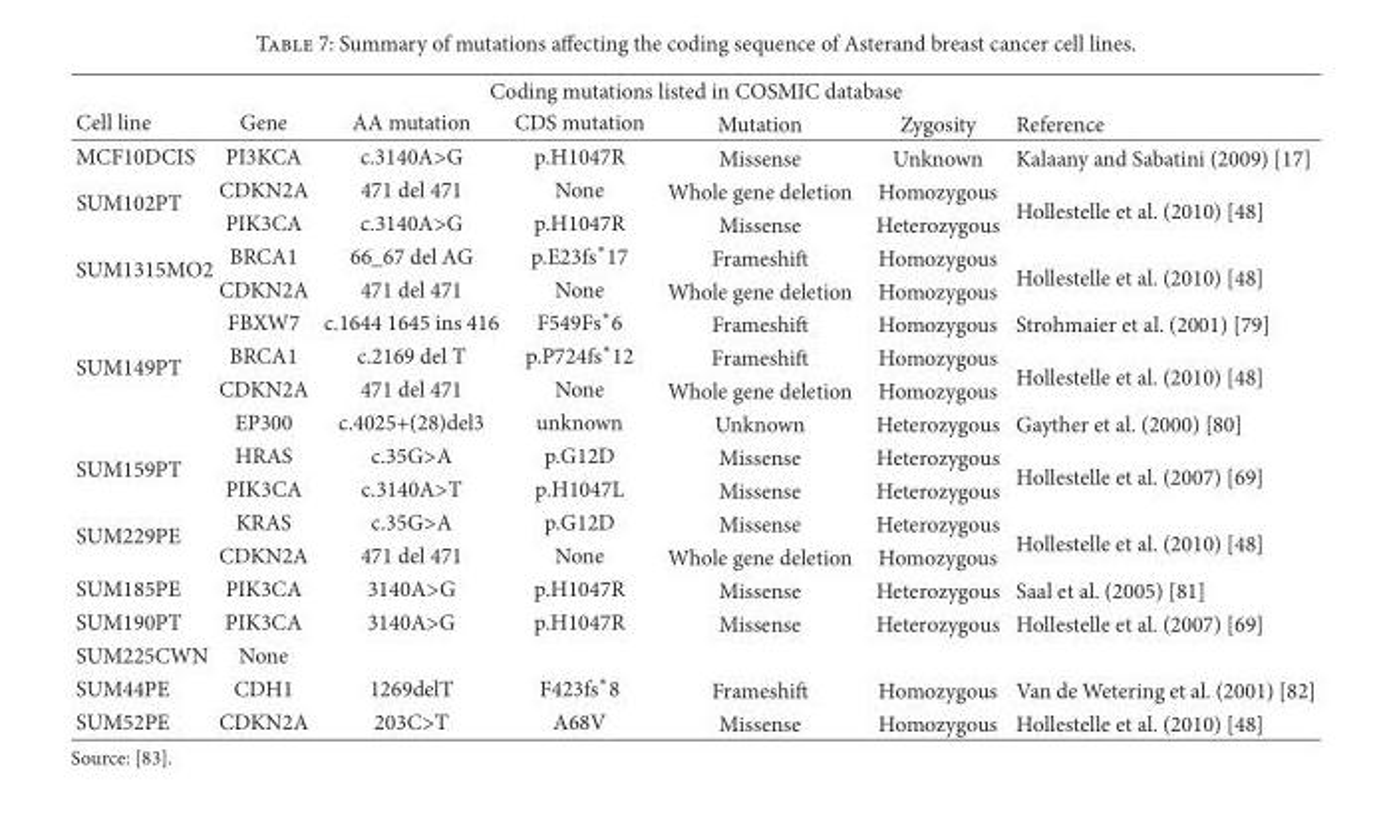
<table><thead><tr><td colspan="7">Coding mutations listed in COSMIC database</td></tr><tr><td>Cell line</td><td>Gene</td><td>AA mutation</td><td>CDS mutation</td><td>Mutation</td><td>Zygosity</td><td>Reference</td></tr></thead><tbody><tr><td>MCF10DCIS</td><td>PI3KCA</td><td>c.3140A&gt;G</td><td>p.H1047R</td><td>Missense</td><td>Unknown</td><td>Kalaany and Sabatini (2009) [17]</td></tr><tr><td rowspan="2">SUM102PT</td><td>CDKN2A</td><td>471 del 471</td><td>None</td><td>Whole gene deletion</td><td>Homozygous</td><td rowspan="2">Hollestelle et al. (2010) [48]</td></tr><tr><td>PIK3CA</td><td>c.3140A&gt;G</td><td>p.H1047R</td><td>Missense</td><td>Heterozygous</td></tr><tr><td rowspan="2">SUM1315MO2</td><td>BRCA1</td><td>66_67 del AG</td><td>p.E23fs∗17</td><td>Frameshi</td><td>Homozygous</td><td rowspan="2">Hollestelle et al. (2010) [48]</td></tr><tr><td>CDKN2A</td><td>471 del 471</td><td>None</td><td>Whole gene deletion</td><td>Homozygous</td></tr><tr><td rowspan="4">SUM149PT</td><td>FBXW7</td><td>c.1644 1645 ins 416</td><td>F549Fs∗6</td><td>Frameshi</td><td>Homozygous</td><td>Strohmaier et al. (2001) [79]</td></tr><tr><td>BRCA1</td><td>c.2169 del T</td><td>p.P724fs∗12</td><td>Frameshi</td><td>Homozygous</td><td rowspan="2">Hollestelle et al. (2010) [48]</td></tr><tr><td>CDKN2A</td><td>471 del 471</td><td>None</td><td>Whole gene deletion</td><td>Homozygous</td></tr><tr><td>EP300</td><td>c.4025+(28)del3</td><td>unknown</td><td>Unknown</td><td>Heterozygous</td><td>Gayther et al. (2000) [80]</td></tr><tr><td rowspan="2">SUM159PT</td><td>HRAS</td><td>c.35G&gt;A</td><td>p.G12D</td><td>Missense</td><td>Heterozygous</td><td rowspan="2">Hollestelle et al. (2007) [69]</td></tr><tr><td>PIK3CA</td><td>c.3140A&gt;T</td><td>p.H1047L</td><td>Missense</td><td>Heterozygous</td></tr><tr><td rowspan="2">SUM229PE</td><td>KRAS</td><td>c.35G&gt;A</td><td>p.G12D</td><td>Missense</td><td>Heterozygous</td><td rowspan="2">Hollestelle et al. (2010) [48]</td></tr><tr><td>CDKN2A</td><td>471 del 471</td><td>None</td><td>Whole gene deletion</td><td>Homozygous</td></tr><tr><td>SUM185PE</td><td>PIK3CA</td><td>3140A&gt;G</td><td>p.H1047R</td><td>Missense</td><td>Heterozygous</td><td>Saal et al. (2005) [81]</td></tr><tr><td>SUM190PT</td><td>PIK3CA</td><td>3140A&gt;G</td><td>p.H1047R</td><td>Missense</td><td>Heterozygous</td><td>Hollestelle et al. (2007) [69]</td></tr><tr><td>SUM225CWN</td><td>None</td><td></td><td></td><td></td><td></td><td></td></tr><tr><td>SUM44PE</td><td>CDH1</td><td>1269delT</td><td>F423fs∗8</td><td>Frameshi</td><td>Homozygous</td><td>Van de Wetering et al. (2001) [82]</td></tr><tr><td>SUM52PE</td><td>CDKN2A</td><td>203C&gt;T</td><td>A68V</td><td>Missense</td><td>Homozygous</td><td>Hollestelle et al. (2010) [48]</td></tr></tbody></table>